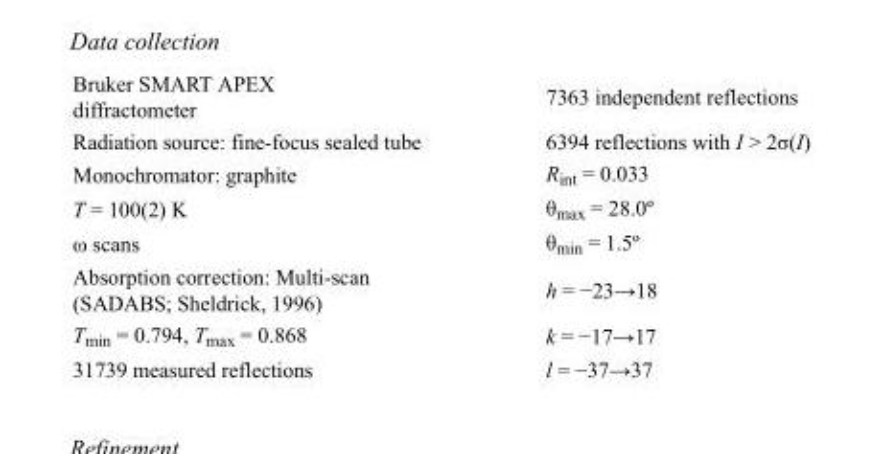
<table><tbody><tr><td>Bruker SMART APEX diffractometer</td><td>7363 independent reflections</td></tr><tr><td>Radiation source: fine-focus sealed tube</td><td>6394 reflections with I &gt; 2σ(I)</td></tr><tr><td>Monochromator: graphite</td><td>R<sub>int</sub> = 0.033</td></tr><tr><td>T = 100(2) K</td><td>θ<sub>max</sub> = 28.0º</td></tr><tr><td>ω scans</td><td>θ<sub>min</sub> = 1.5º</td></tr><tr><td>Absorption correction: Multi-scan (SADABS; Sheldrick, 1996)</td><td>h = −23→18</td></tr><tr><td>T<sub>min</sub> = 0.794, T<sub>max</sub> = 0.868</td><td>k = −17→17</td></tr><tr><td>31739 measured reflections</td><td>l = −37→37</td></tr></tbody></table>